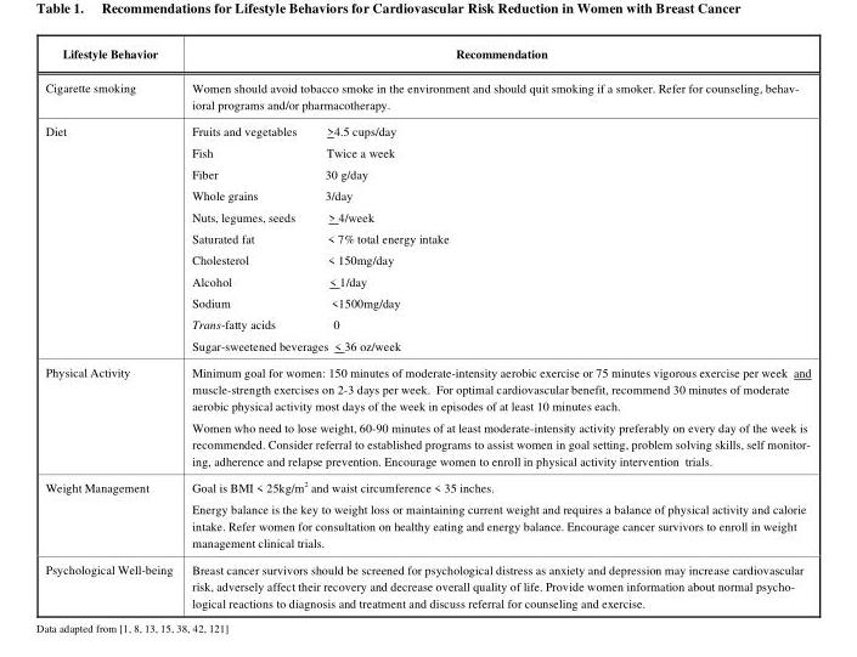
<table><thead><tr><td>Lifestyle Behavior</td><td>Recommendation</td></tr></thead><tbody><tr><td>Cigarette smoking</td><td>Women should avoid tobacco smoke in the environment and should quit smoking if a smoker. Refer for counseling, behav- ioral programs and/or pharmacotherapy.</td></tr><tr><td rowspan="11">Diet</td><td>Fruits and vegetables &gt;4.5 cups/day</td></tr><tr><td>Fish Twice a week</td></tr><tr><td>Fiber 30 g/day</td></tr><tr><td>Whole grains 3/day</td></tr><tr><td>Nuts, legumes, seeds &gt; 4/week</td></tr><tr><td>Saturated fat &lt; 7% total energy intake</td></tr><tr><td>Cholesterol &lt; 150mg/day</td></tr><tr><td>Alcohol &lt; 1/day</td></tr><tr><td>Sodium &lt;1500mg/day</td></tr><tr><td>Trans-fatty acids 0</td></tr><tr><td>Sugar-sweetened beverages &lt; 36 oz/week</td></tr><tr><td rowspan="2">Physical Activity</td><td>Minimum goal for women: 150 minutes of moderate-intensity aerobic exercise or 75 minutes vigorous exercise per week and muscle-strength exercises on 2-3 days per week. For optimal cardiovascular benefit, recommend 30 minutes of moderate aerobic physical activity most days of the week in episodes of at least 10 minutes each.</td></tr><tr><td>Women who need to lose weight, 60-90 minutes of at least moderate-intensity activity preferably on every day of the week is recommended. Consider referral to established programs to assist women in goal setting, problem solving skills, self monitor- ing, adherence and relapse prevention. Encourage women to enroll in physical activity intervention trials.</td></tr><tr><td rowspan="2">Weight Management</td><td>Goal is BMI &lt; 25kg/m2 and waist circumference &lt; 35 inches.</td></tr><tr><td>Energy balance is the key to weight loss or maintaining current weight and requires a balance of physical activity and calorie intake. Refer women for consultation on healthy eating and energy balance. Encourage cancer survivors to enroll in weight management clinical trials.</td></tr><tr><td>Psychological Well-being</td><td>Breast cancer survivors should be screened for psychological distress as anxiety and depression may increase cardiovascular risk, adversely affect their recovery and decrease overall quality of life. Provide women information about normal psycho- logical reactions to diagnosis and treatment and discuss referral for counseling and exercise.</td></tr></tbody></table>